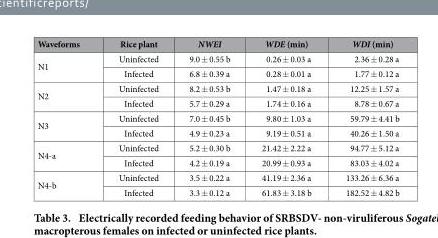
<table><thead><tr><td>Waveforms</td><td>Rice plant</td><td>NWEI</td><td>WDE (min)</td><td>WDI (min)</td></tr></thead><tbody><tr><td rowspan="2">N1</td><td>Uninfected</td><td>9.0 ± 0.55 b</td><td>0.26 ± 0.03 a</td><td>2.36 ± 0.28 a</td></tr><tr><td>Infected</td><td>6.8 ± 0.39 a</td><td>0.28 ± 0.01 a</td><td>1.77 ± 0.12 a</td></tr><tr><td rowspan="2">N2</td><td>Uninfected</td><td>8.2 ± 0.53 b</td><td>1.47 ± 0.18 a</td><td>12.25 ± 1.57 a</td></tr><tr><td>Infected</td><td>5.7 ± 0.29 a</td><td>1.74 ± 0.16 a</td><td>8.78 ± 0.67 a</td></tr><tr><td rowspan="2">N3</td><td>Uninfected</td><td>7.0 ± 0.45 b</td><td>9.80 ± 1.03 a</td><td>59.79 ± 4.41 b</td></tr><tr><td>Infected</td><td>4.9 ± 0.23 a</td><td>9.19 ± 0.51 a</td><td>40.26 ± 1.50 a</td></tr><tr><td rowspan="2">N4-a</td><td>Uninfected</td><td>5.2 ± 0.30 b</td><td>21.42 ± 2.22 a</td><td>94.77 ± 5.12 a</td></tr><tr><td>Infected</td><td>4.2 ± 0.19 a</td><td>20.99 ± 0.93 a</td><td>83.03 ± 4.02 a</td></tr><tr><td rowspan="2">N4-b</td><td>Uninfected</td><td>3.5 ± 0.22 a</td><td>41.19 ± 2.36 a</td><td>133.26 ± 6.36 a</td></tr><tr><td>Infected</td><td>3.3 ± 0.12 a</td><td>61.83 ± 3.18 b</td><td>182.52 ± 4.82 b</td></tr></tbody></table>